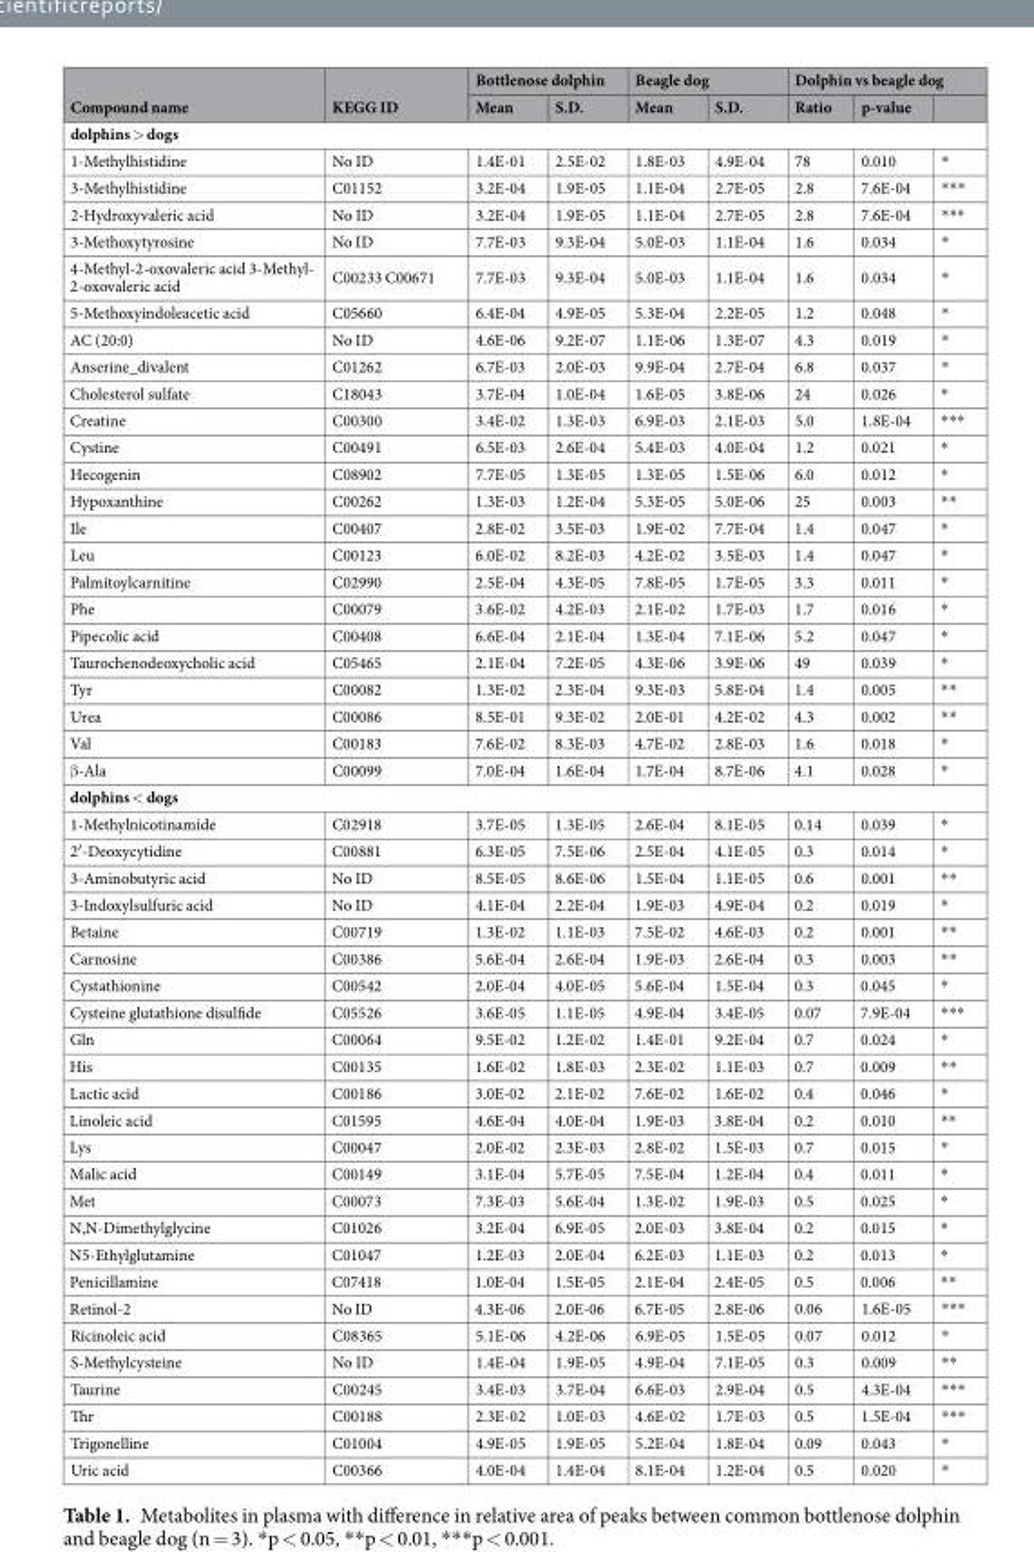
<table><thead><tr><td rowspan="2">Compound name</td><td rowspan="2">KEGG ID</td><td colspan="2">Bottlenose dolphin</td><td colspan="2">Beagle dog</td><td colspan="3">Dolphin vs beagle dog</td></tr><tr><td>Mean</td><td>S.D.</td><td>Mean</td><td>S.D.</td><td>Ratio</td><td>p-value</td><td></td></tr></thead><tbody><tr><td colspan="9">dolphins &gt; dogs</td></tr><tr><td>1-Methylhistidine</td><td>No ID</td><td>1.4E-01</td><td>2.5E-02</td><td>1.8E-03</td><td>4.9E-04</td><td>78</td><td>0.010</td><td>*</td></tr><tr><td>3-Methylhistidine</td><td>C01152</td><td>3.2E-04</td><td>1.9E-05</td><td>1.1E-04</td><td>2.7E-05</td><td>2.8</td><td>7.6E-04</td><td>***</td></tr><tr><td>2-Hydroxyvaleric acid</td><td>No ID</td><td>3.2E-04</td><td>1.9E-05</td><td>1.1E-04</td><td>2.7E-05</td><td>2.8</td><td>7.6E-04</td><td>***</td></tr><tr><td>3-Methoxytyrosine</td><td>No ID</td><td>7.7E-03</td><td>9.3E-04</td><td>5.0E-03</td><td>1.1E-04</td><td>1.6</td><td>0.034</td><td>*</td></tr><tr><td>4-Methyl-2-oxovaleric acid 3-Methyl- 2-oxovaleric acid</td><td>C00233 C00671</td><td>7.7E-03</td><td>9.3E-04</td><td>5.0E-03</td><td>1.1E-04</td><td>1.6</td><td>0.034</td><td>*</td></tr><tr><td>5-Methoxyindoleacetic acid</td><td>C05660</td><td>6.4E-04</td><td>4.9E-05</td><td>5.3E-04</td><td>2.2E-05</td><td>1.2</td><td>0.048</td><td>*</td></tr><tr><td>AC (20:0)</td><td>No ID</td><td>4.6E-06</td><td>9.2E-07</td><td>1.1E-06</td><td>1.3E-07</td><td>4.3</td><td>0.019</td><td>*</td></tr><tr><td>Anserine_divalent</td><td>C01262</td><td>6.7E-03</td><td>2.0E-03</td><td>9.9E-04</td><td>2.7E-04</td><td>6.8</td><td>0.037</td><td>*</td></tr><tr><td>Cholesterol sulfate</td><td>C18043</td><td>3.7E-04</td><td>1.0E-04</td><td>1.6E-05</td><td>3.8E-06</td><td>24</td><td>0.026</td><td>*</td></tr><tr><td>Creatine</td><td>C00300</td><td>3.4E-02</td><td>1.3E-03</td><td>6.9E-03</td><td>2.1E-03</td><td>5.0</td><td>1.8E-04</td><td>***</td></tr><tr><td>Cystine</td><td>C00491</td><td>6.5E-03</td><td>2.6E-04</td><td>5.4E-03</td><td>4.0E-04</td><td>1.2</td><td>0.021</td><td>*</td></tr><tr><td>Hecogenin</td><td>C08902</td><td>7.7E-05</td><td>1.3E-05</td><td>1.3E-05</td><td>1.5E-06</td><td>6.0</td><td>0.012</td><td>*</td></tr><tr><td>Hypoxanthine</td><td>C00262</td><td>1.3E-03</td><td>1.2E-04</td><td>5.3E-05</td><td>5.0E-06</td><td>25</td><td>0.003</td><td>**</td></tr><tr><td>Ile</td><td>C00407</td><td>2.8E-02</td><td>3.5E-03</td><td>1.9E-02</td><td>7.7E-04</td><td>1.4</td><td>0.047</td><td>*</td></tr><tr><td>Leu</td><td>C00123</td><td>6.0E-02</td><td>8.2E-03</td><td>4.2E-02</td><td>3.5E-03</td><td>1.4</td><td>0.047</td><td>*</td></tr><tr><td>Palmitoylcarnitine</td><td>C02990</td><td>2.5E-04</td><td>4.3E-05</td><td>7.8E-05</td><td>1.7E-05</td><td>3.3</td><td>0.011</td><td>*</td></tr><tr><td>Phe</td><td>C00079</td><td>3.6E-02</td><td>4.2E-03</td><td>2.1E-02</td><td>1.7E-03</td><td>1.7</td><td>0.016</td><td>*</td></tr><tr><td>Pipecolic acid</td><td>C00408</td><td>6.6E-04</td><td>2.1E-04</td><td>1.3E-04</td><td>7.1E-06</td><td>5.2</td><td>0.047</td><td>*</td></tr><tr><td>Taurochenodeoxycholic acid</td><td>C05465</td><td>2.1E-04</td><td>7.2E-05</td><td>4.3E-06</td><td>3.9E-06</td><td>49</td><td>0.039</td><td>*</td></tr><tr><td>Tyr</td><td>C00082</td><td>1.3E-02</td><td>2.3E-04</td><td>9.3E-03</td><td>5.8E-04</td><td>1.4</td><td>0.005</td><td>**</td></tr><tr><td>Urea</td><td>C00086</td><td>8.5E-01</td><td>9.3E-02</td><td>2.0E-01</td><td>4.2E-02</td><td>4.3</td><td>0.002</td><td>**</td></tr><tr><td>Val</td><td>C00183</td><td>7.6E-02</td><td>8.3E-03</td><td>4.7E-02</td><td>2.8E-03</td><td>1.6</td><td>0.018</td><td>*</td></tr><tr><td>β-Ala</td><td>C00099</td><td>7.0E-04</td><td>1.6E-04</td><td>1.7E-04</td><td>8.7E-06</td><td>4.1</td><td>0.028</td><td>*</td></tr><tr><td colspan="9">dolphins &lt; dogs</td></tr><tr><td>1-Methylnicotinamide</td><td>C02918</td><td>3.7E-05</td><td>1.3E-05</td><td>2.6E-04</td><td>8.1E-05</td><td>0.14</td><td>0.039</td><td>*</td></tr><tr><td>2′-Deoxycytidine</td><td>C00881</td><td>6.3E-05</td><td>7.5E-06</td><td>2.5E-04</td><td>4.1E-05</td><td>0.3</td><td>0.014</td><td>*</td></tr><tr><td>3-Aminobutyric acid</td><td>No ID</td><td>8.5E-05</td><td>8.6E-06</td><td>1.5E-04</td><td>1.1E-05</td><td>0.6</td><td>0.001</td><td>**</td></tr><tr><td>3-Indoxylsulfuric acid</td><td>No ID</td><td>4.1E-04</td><td>2.2E-04</td><td>1.9E-03</td><td>4.9E-04</td><td>0.2</td><td>0.019</td><td>*</td></tr><tr><td>Betaine</td><td>C00719</td><td>1.3E-02</td><td>1.1E-03</td><td>7.5E-02</td><td>4.6E-03</td><td>0.2</td><td>0.001</td><td>**</td></tr><tr><td>Carnosine</td><td>C00386</td><td>5.6E-04</td><td>2.6E-04</td><td>1.9E-03</td><td>2.6E-04</td><td>0.3</td><td>0.003</td><td>**</td></tr><tr><td>Cystathionine</td><td>C00542</td><td>2.0E-04</td><td>4.0E-05</td><td>5.6E-04</td><td>1.5E-04</td><td>0.3</td><td>0.045</td><td>*</td></tr><tr><td>Cysteine glutathione disulfide</td><td>C05526</td><td>3.6E-05</td><td>1.1E-05</td><td>4.9E-04</td><td>3.4E-05</td><td>0.07</td><td>7.9E-04</td><td>***</td></tr><tr><td>Gln</td><td>C00064</td><td>9.5E-02</td><td>1.2E-02</td><td>1.4E-01</td><td>9.2E-04</td><td>0.7</td><td>0.024</td><td>*</td></tr><tr><td>His</td><td>C00135</td><td>1.6E-02</td><td>1.8E-03</td><td>2.3E-02</td><td>1.1E-03</td><td>0.7</td><td>0.009</td><td>**</td></tr><tr><td>Lactic acid</td><td>C00186</td><td>3.0E-02</td><td>2.1E-02</td><td>7.6E-02</td><td>1.6E-02</td><td>0.4</td><td>0.046</td><td>*</td></tr><tr><td>Linoleic acid</td><td>C01595</td><td>4.6E-04</td><td>4.0E-04</td><td>1.9E-03</td><td>3.8E-04</td><td>0.2</td><td>0.010</td><td>**</td></tr><tr><td>Lys</td><td>C00047</td><td>2.0E-02</td><td>2.3E-03</td><td>2.8E-02</td><td>1.5E-03</td><td>0.7</td><td>0.015</td><td>*</td></tr><tr><td>Malic acid</td><td>C00149</td><td>3.1E-04</td><td>5.7E-05</td><td>7.5E-04</td><td>1.2E-04</td><td>0.4</td><td>0.011</td><td>*</td></tr><tr><td>Met</td><td>C00073</td><td>7.3E-03</td><td>5.6E-04</td><td>1.3E-02</td><td>1.9E-03</td><td>0.5</td><td>0.025</td><td>*</td></tr><tr><td>N,N-Dimethylglycine</td><td>C01026</td><td>3.2E-04</td><td>6.9E-05</td><td>2.0E-03</td><td>3.8E-04</td><td>0.2</td><td>0.015</td><td>*</td></tr><tr><td>N5-Ethylglutamine</td><td>C01047</td><td>1.2E-03</td><td>2.0E-04</td><td>6.2E-03</td><td>1.1E-03</td><td>0.2</td><td>0.013</td><td>*</td></tr><tr><td>Penicillamine</td><td>C07418</td><td>1.0E-04</td><td>1.5E-05</td><td>2.1E-04</td><td>2.4E-05</td><td>0.5</td><td>0.006</td><td>**</td></tr><tr><td>Retinol-2</td><td>No ID</td><td>4.3E-06</td><td>2.0E-06</td><td>6.7E-05</td><td>2.8E-06</td><td>0.06</td><td>1.6E-05</td><td>***</td></tr><tr><td>Ricinoleic acid</td><td>C08365</td><td>5.1E-06</td><td>4.2E-06</td><td>6.9E-05</td><td>1.5E-05</td><td>0.07</td><td>0.012</td><td>*</td></tr><tr><td>S-Methylcysteine</td><td>No ID</td><td>1.4E-04</td><td>1.9E-05</td><td>4.9E-04</td><td>7.1E-05</td><td>0.3</td><td>0.009</td><td>**</td></tr><tr><td>Taurine</td><td>C00245</td><td>3.4E-03</td><td>3.7E-04</td><td>6.6E-03</td><td>2.9E-04</td><td>0.5</td><td>4.3E-04</td><td>***</td></tr><tr><td>Thr</td><td>C00188</td><td>2.3E-02</td><td>1.0E-03</td><td>4.6E-02</td><td>1.7E-03</td><td>0.5</td><td>1.5E-04</td><td>***</td></tr><tr><td>Trigonelline</td><td>C01004</td><td>4.9E-05</td><td>1.9E-05</td><td>5.2E-04</td><td>1.8E-04</td><td>0.09</td><td>0.043</td><td>*</td></tr><tr><td>Uric acid</td><td>C00366</td><td>4.0E-04</td><td>1.4E-04</td><td>8.1E-04</td><td>1.2E-04</td><td>0.5</td><td>0.020</td><td>*</td></tr></tbody></table>